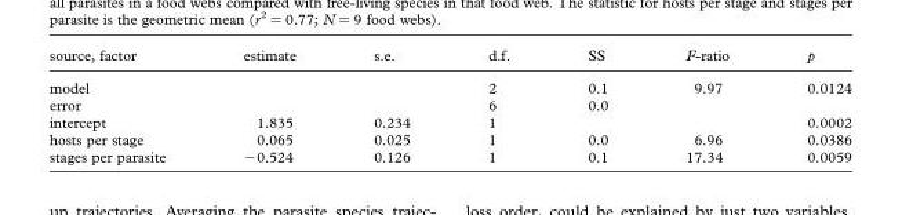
<table><thead><tr><td>source, factor</td><td>estimate</td><td>s.e.</td><td>d.f.</td><td>SS</td><td>F-ratio</td><td>p</td></tr></thead><tbody><tr><td>model</td><td></td><td></td><td>2</td><td>0.1</td><td>9.97</td><td>0.0124</td></tr><tr><td>error</td><td></td><td></td><td>6</td><td>0.0</td><td></td><td></td></tr><tr><td>intercept</td><td>1.835</td><td>0.234</td><td>1</td><td></td><td></td><td>0.0002</td></tr><tr><td>hosts per stage</td><td>0.065</td><td>0.025</td><td>1</td><td>0.0</td><td>6.96</td><td>0.0386</td></tr><tr><td>stages per parasite</td><td>−0.524</td><td>0.126</td><td>1</td><td>0.1</td><td>17.34</td><td>0.0059</td></tr></tbody></table>